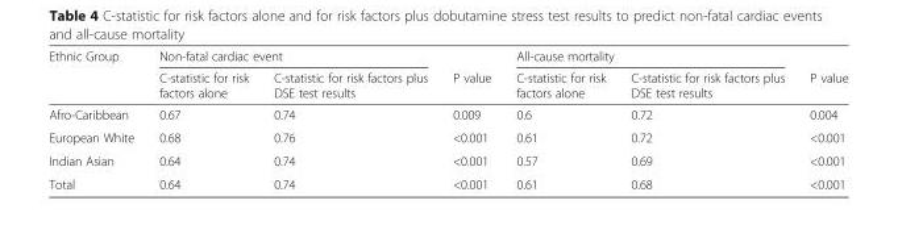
<table><thead><tr><td rowspan="2">Ethnic Group</td><td colspan="2">Non-fatal cardiac event</td><td rowspan="2">P value</td><td colspan="2">All-cause mortality</td><td rowspan="2">P value</td></tr><tr><td>C-statistic for risk factors alone</td><td>C-statistic for risk factors plus DSE test results</td><td>C-statistic for risk factors alone</td><td>C-statistic for risk factors plus DSE test results</td></tr></thead><tbody><tr><td>Afro-Caribbean</td><td>0.67</td><td>0.74</td><td>0.009</td><td>0.6</td><td>0.72</td><td>0.004</td></tr><tr><td>European White</td><td>0.68</td><td>0.76</td><td>&lt;0.001</td><td>0.61</td><td>0.72</td><td>&lt;0.001</td></tr><tr><td>Indian Asian</td><td>0.64</td><td>0.74</td><td>&lt;0.001</td><td>0.57</td><td>0.69</td><td>&lt;0.001</td></tr><tr><td>Total</td><td>0.64</td><td>0.74</td><td>&lt;0.001</td><td>0.61</td><td>0.68</td><td>&lt;0.001</td></tr></tbody></table>